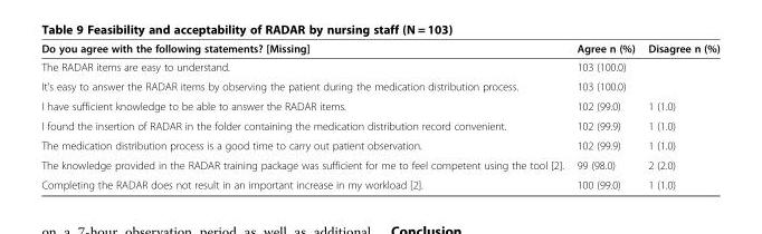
<table><thead><tr><td>Do you agree with the following statements? [Missing]</td><td>Agree n (%)</td><td>Disagree n (%)</td></tr></thead><tbody><tr><td>The RADAR items are easy to understand.</td><td>103 (100.0)</td><td></td></tr><tr><td>It’s easy to answer the RADAR items by observing the patient during the medication distribution process.</td><td>103 (100.0)</td><td></td></tr><tr><td>I have sufficient knowledge to be able to answer the RADAR items.</td><td>102 (99.0)</td><td>1 (1.0)</td></tr><tr><td>I found the insertion of RADAR in the folder containing the medication distribution record convenient.</td><td>102 (99.9)</td><td>1 (1.0)</td></tr><tr><td>The medication distribution process is a good time to carry out patient observation.</td><td>102 (99.9)</td><td>1 (1.0)</td></tr><tr><td>The knowledge provided in the RADAR training package was sufficient for me to feel competent using the tool [2].</td><td>99 (98.0)</td><td>2 (2.0)</td></tr><tr><td>Completing the RADAR does not result in an important increase in my workload [2].</td><td>100 (99.0)</td><td>1 (1.0)</td></tr></tbody></table>